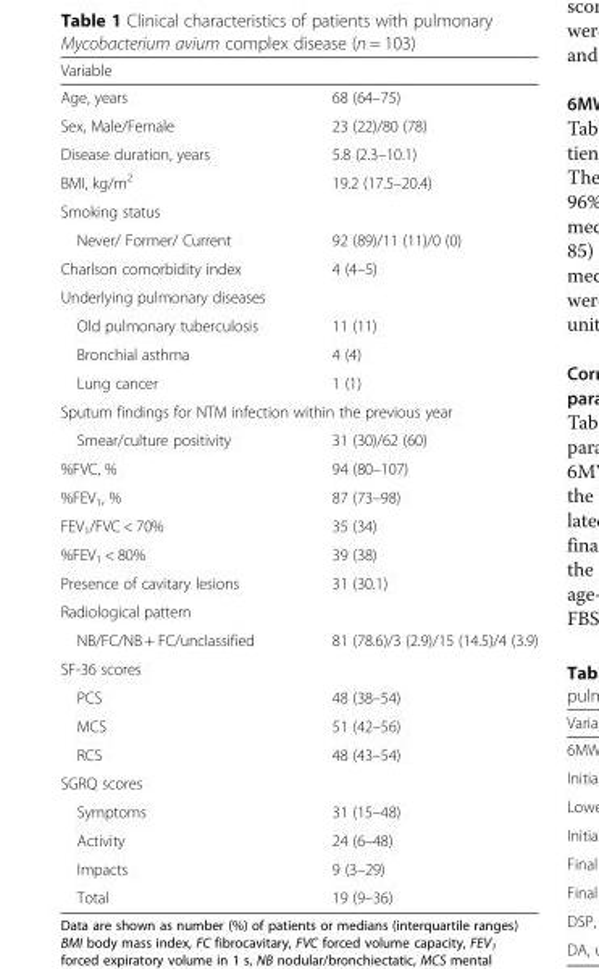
<table><thead><tr><td colspan="2">Variable</td></tr><tr><td>Age, years</td><td>68 (64–75)</td></tr></thead><tbody><tr><td>Sex, Male/Female</td><td>23 (22)/80 (78)</td></tr><tr><td>Disease duration, years</td><td>5.8 (2.3–10.1)</td></tr><tr><td>BMI, kg/m<sup>2</sup></td><td>19.2 (17.5–20.4)</td></tr><tr><td colspan="2">Smoking status</td></tr><tr><td>Never/ Former/ Current</td><td>92 (89)/11 (11)/0 (0)</td></tr><tr><td>Charlson comorbidity index</td><td>4 (4–5)</td></tr><tr><td colspan="2">Underlying pulmonary diseases</td></tr><tr><td>Old pulmonary tuberculosis</td><td>11 (11)</td></tr><tr><td>Bronchial asthma</td><td>4 (4)</td></tr><tr><td>Lung cancer</td><td>1 (1)</td></tr><tr><td colspan="2">Sputum findings for NTM infection within the previous year</td></tr><tr><td>Smear/culture positivity</td><td>31 (30)/62 (60)</td></tr><tr><td>%FVC, %</td><td>94 (80–107)</td></tr><tr><td>%FEV<sub>1</sub>, %</td><td>87 (73–98)</td></tr><tr><td>FEV<sub>1</sub>/FVC &lt; 70%</td><td>35 (34)</td></tr><tr><td>%FEV<sub>1</sub> &lt; 80%</td><td>39 (38)</td></tr><tr><td>Presence of cavitary lesions</td><td>31 (30.1)</td></tr><tr><td colspan="2">Radiological pattern</td></tr><tr><td>NB/FC/NB + FC/unclassified</td><td>81 (78.6)/3 (2.9)/15 (14.5)/4 (3.9)</td></tr><tr><td colspan="2">SF-36 scores</td></tr><tr><td>PCS</td><td>48 (38–54)</td></tr><tr><td>MCS</td><td>51 (42–56)</td></tr><tr><td>RCS</td><td>48 (43–54)</td></tr><tr><td colspan="2">SGRQ scores</td></tr><tr><td>Symptoms</td><td>31 (15–48)</td></tr><tr><td>Activity</td><td>24 (6–48)</td></tr><tr><td>Impacts</td><td>9 (3–29)</td></tr><tr><td>Total</td><td>19 (9–36)</td></tr></tbody></table>